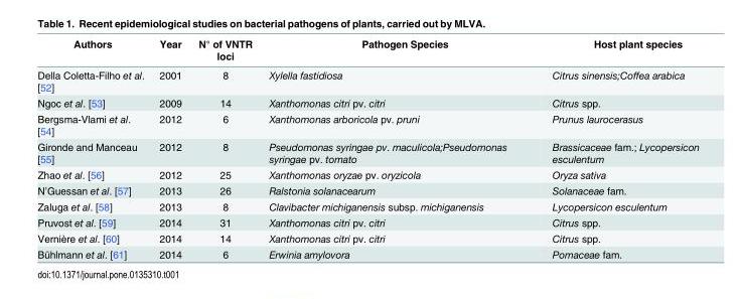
<table><thead><tr><td>Authors</td><td>Year</td><td>N° of VNTR loci</td><td>Pathogen Species</td><td>Host plant species</td></tr></thead><tbody><tr><td>Della Coletta-Filho et al. [52]</td><td>2001</td><td>8</td><td>Xylella fastidiosa</td><td>Citrus sinensis;Coffea arabica</td></tr><tr><td>Ngoc et al. [53]</td><td>2009</td><td>14</td><td>Xanthomonas citri pv. citri</td><td>Citrus spp.</td></tr><tr><td>Bergsma-Vlami et al. [54]</td><td>2012</td><td>6</td><td>Xanthomonas arboricola pv. pruni</td><td>Prunus laurocerasus</td></tr><tr><td>Gironde and Manceau [55]</td><td>2012</td><td>8</td><td>Pseudomonas syringae pv. maculicola;Pseudomonas syringae pv. tomato</td><td>Brassicaceae fam.; Lycopersicon esculentum</td></tr><tr><td>Zhao et al. [56]</td><td>2012</td><td>25</td><td>Xanthomonas oryzae pv. oryzicola</td><td>Oryza sativa</td></tr><tr><td>N’Guessan et al. [57]</td><td>2013</td><td>26</td><td>Ralstonia solanacearum</td><td>Solanaceae fam.</td></tr><tr><td>Zaluga et al. [58]</td><td>2013</td><td>8</td><td>Clavibacter michiganensis subsp. michiganensis</td><td>Lycopersicon esculentum</td></tr><tr><td>Pruvost et al. [59]</td><td>2014</td><td>31</td><td>Xanthomonas citri pv. citri</td><td>Citrus spp.</td></tr><tr><td>Vernière et al. [60]</td><td>2014</td><td>14</td><td>Xanthomonas citri pv. citri</td><td>Citrus spp.</td></tr><tr><td>Bühlmann et al. [61]</td><td>2014</td><td>6</td><td>Erwinia amylovora</td><td>Pomaceae fam.</td></tr></tbody></table>